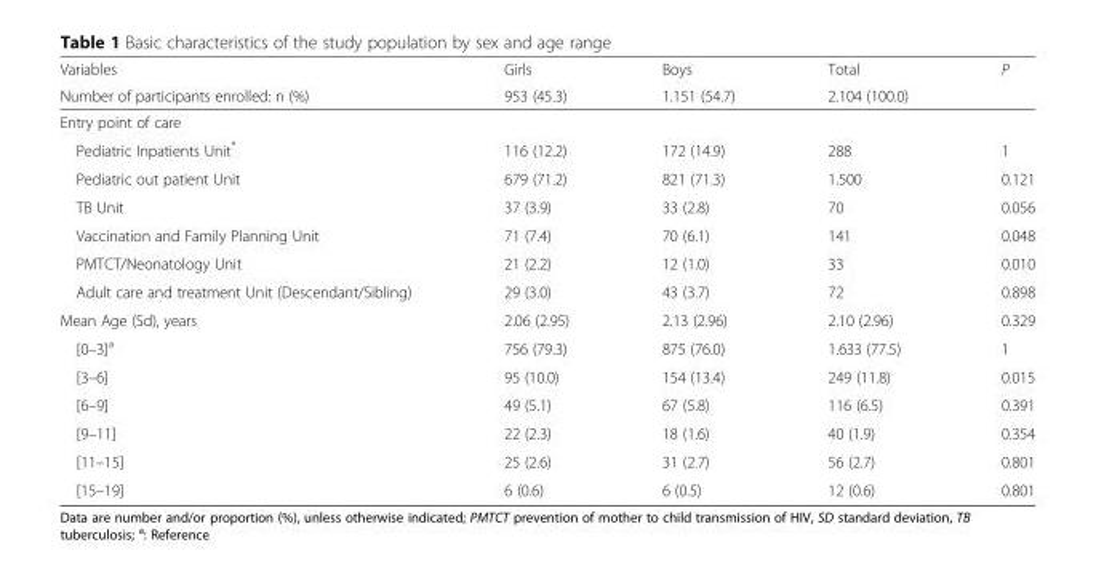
<table><thead><tr><td rowspan="2">Variables Number of participants enrolled: n (%)</td><td rowspan="2">Girls 953 (45.3)</td><td rowspan="2">Boys 1.151 (54.7)</td><td rowspan="2">Total 2.104 (100.0)</td><td rowspan="2">P</td></tr><tr></tr></thead><tbody><tr><td colspan="5">Entry point of care</td></tr><tr><td>Pediatric Inpatients Unit*</td><td>116 (12.2)</td><td>172 (14.9)</td><td>288</td><td>1</td></tr><tr><td>Pediatric out patient Unit</td><td>679 (71.2)</td><td>821 (71.3)</td><td>1.500</td><td>0.121</td></tr><tr><td>TB Unit</td><td>37 (3.9)</td><td>33 (2.8)</td><td>70</td><td>0.056</td></tr><tr><td>Vaccination and Family Planning Unit</td><td>71 (7.4)</td><td>70 (6.1)</td><td>141</td><td>0.048</td></tr><tr><td>PMTCT/Neonatology Unit</td><td>21 (2.2)</td><td>12 (1.0)</td><td>33</td><td>0.010</td></tr><tr><td>Adult care and treatment Unit (Descendant/Sibling)</td><td>29 (3.0)</td><td>43 (3.7)</td><td>72</td><td>0.898</td></tr><tr><td>Mean Age (Sd), years</td><td>2.06 (2.95)</td><td>2.13 (2.96)</td><td>2.10 (2.96)</td><td>0.329</td></tr><tr><td>[0–3]<sup>a</sup></td><td>756 (79.3)</td><td>875 (76.0)</td><td>1.633 (77.5)</td><td>1</td></tr><tr><td>[3–6]</td><td>95 (10.0)</td><td>154 (13.4)</td><td>249 (11.8)</td><td>0.015</td></tr><tr><td>[6–9]</td><td>49 (5.1)</td><td>67 (5.8)</td><td>116 (6.5)</td><td>0.391</td></tr><tr><td>[9–11]</td><td>22 (2.3)</td><td>18 (1.6)</td><td>40 (1.9)</td><td>0.354</td></tr><tr><td>[11–15]</td><td>25 (2.6)</td><td>31 (2.7)</td><td>56 (2.7)</td><td>0.801</td></tr><tr><td>[15–19]</td><td>6 (0.6)</td><td>6 (0.5)</td><td>12 (0.6)</td><td>0.801</td></tr></tbody></table>